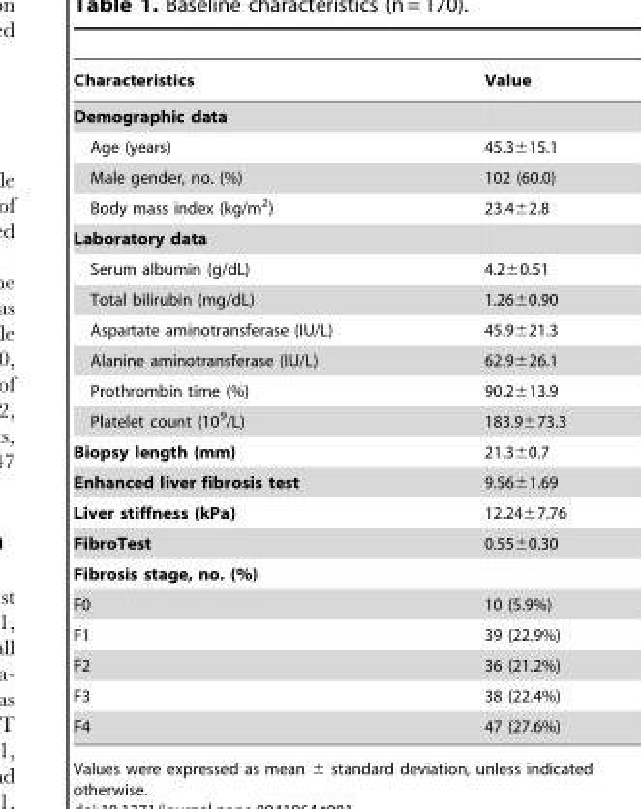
<table><thead><tr><td>Characteristics</td><td>Value</td></tr></thead><tbody><tr><td colspan="2">Demographic data</td></tr><tr><td>Age (years)</td><td>45.3±15.1</td></tr><tr><td>Male gender, no. (%)</td><td>102 (60.0)</td></tr><tr><td>Body mass index (kg/m<sup>2</sup>)</td><td>23.4±2.8</td></tr><tr><td colspan="2">Laboratory data</td></tr><tr><td>Serum albumin (g/dL)</td><td>4.2±0.51</td></tr><tr><td>Total bilirubin (mg/dL)</td><td>1.26±0.90</td></tr><tr><td>Aspartate aminotransferase (IU/L)</td><td>45.9±21.3</td></tr><tr><td>Alanine aminotransferase (IU/L)</td><td>62.9±26.1</td></tr><tr><td>Prothrombin time (%)</td><td>90.2±13.9</td></tr><tr><td>Platelet count (10<sup>9</sup>/L)</td><td>183.9±73.3</td></tr><tr><td>Biopsy length (mm)</td><td>21.3±0.7</td></tr><tr><td>Enhanced liver fibrosis test</td><td>9.56±1.69</td></tr><tr><td>Liver stiffness (kPa)</td><td>12.24±7.76</td></tr><tr><td>FibroTest</td><td>0.55±0.30</td></tr><tr><td colspan="2">Fibrosis stage, no. (%)</td></tr><tr><td>F0</td><td>10 (5.9%)</td></tr><tr><td>F1</td><td>39 (22.9%)</td></tr><tr><td>F2</td><td>36 (21.2%)</td></tr><tr><td>F3</td><td>38 (22.4%)</td></tr><tr><td>F4</td><td>47 (27.6%)</td></tr></tbody></table>